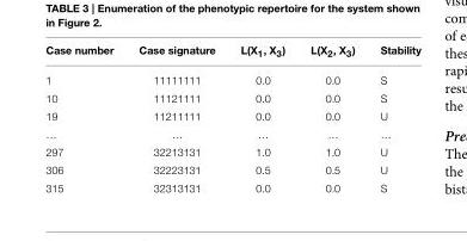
<table><thead><tr><td>Case number</td><td>Case signature</td><td>L(X<sub>1</sub>, X<sub>3</sub>)</td><td>L(X<sub>2</sub>, X<sub>3</sub>)</td><td>Stability</td></tr></thead><tbody><tr><td>1</td><td>11111111</td><td>0.0</td><td>0.0</td><td>S</td></tr><tr><td>10</td><td>11121111</td><td>0.0</td><td>0.0</td><td>S</td></tr><tr><td>19</td><td>11211111</td><td>0.0</td><td>0.0</td><td>U</td></tr><tr><td>…</td><td>…</td><td>…</td><td>…</td><td>…</td></tr><tr><td>297</td><td>32213131</td><td>1.0</td><td>1.0</td><td>U</td></tr><tr><td>306</td><td>32223131</td><td>0.5</td><td>0.5</td><td>U</td></tr><tr><td>315</td><td>32313131</td><td>0.0</td><td>0.0</td><td>S</td></tr></tbody></table>